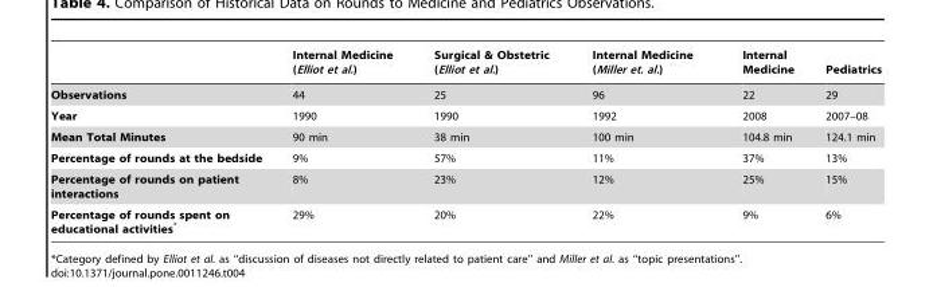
<table><thead><tr><td></td><td>Internal Medicine (Elliot et al.)</td><td>Surgical &amp; Obstetric (Elliot et al.)</td><td>Internal Medicine (Miller et. al.)</td><td>Internal Medicine</td><td>Pediatrics</td></tr></thead><tbody><tr><td>Observations</td><td>44</td><td>25</td><td>96</td><td>22</td><td>29</td></tr><tr><td>Year</td><td>1990</td><td>1990</td><td>1992</td><td>2008</td><td>2007–08</td></tr><tr><td>Mean Total Minutes</td><td>90 min</td><td>38 min</td><td>100 min</td><td>104.8 min</td><td>124.1 min</td></tr><tr><td>Percentage of rounds at the bedside</td><td>9%</td><td>57%</td><td>11%</td><td>37%</td><td>13%</td></tr><tr><td>Percentage of rounds on patient interactions</td><td>8%</td><td>23%</td><td>12%</td><td>25%</td><td>15%</td></tr><tr><td>Percentage of rounds spent on educational activities*</td><td>29%</td><td>20%</td><td>22%</td><td>9%</td><td>6%</td></tr></tbody></table>